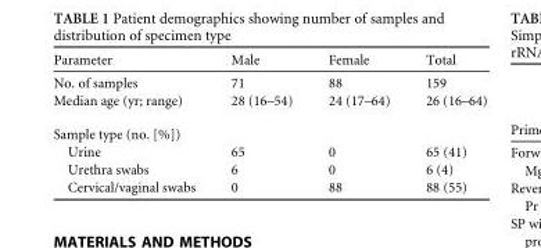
<table><thead><tr><td>Parameter</td><td>Male</td><td>Female</td><td>Total</td></tr></thead><tbody><tr><td>No. of samples</td><td>71</td><td>88</td><td>159</td></tr><tr><td>Median age (yr; range)</td><td>28 (16–54)</td><td>24 (17–64)</td><td>26 (16–64)</td></tr><tr><td colspan="4">Sample type (no. [%])</td></tr><tr><td>Urine</td><td>65</td><td>0</td><td>65 (41)</td></tr><tr><td>Urethra swabs</td><td>6</td><td>0</td><td>6 (4)</td></tr><tr><td>Cervical/vaginal swabs</td><td>0</td><td>88</td><td>88 (55)</td></tr></tbody></table>